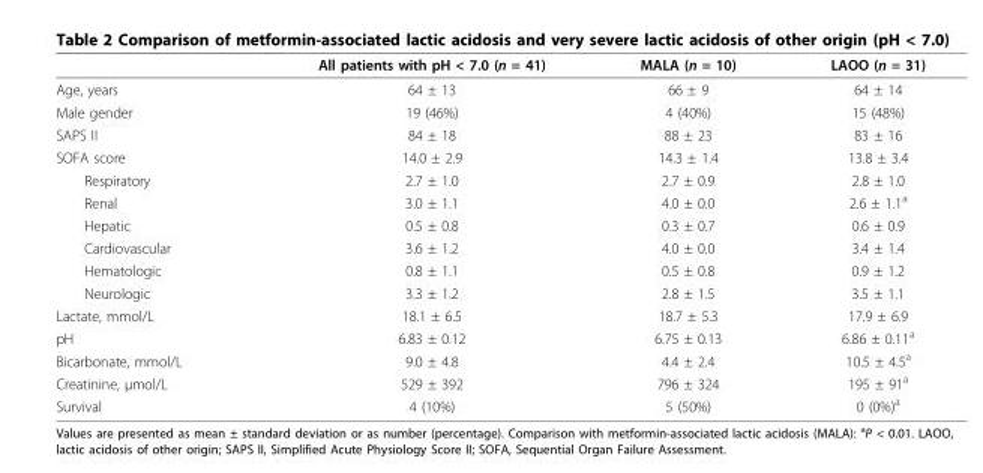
<table><thead><tr><td></td><td>All patients with pH &lt; 7.0 (n = 41)</td><td>MALA (n = 10)</td><td>LAOO (n = 31)</td></tr></thead><tbody><tr><td>Age, years</td><td>64 ± 13</td><td>66 ± 9</td><td>64 ± 14</td></tr><tr><td>Male gender</td><td>19 (46%)</td><td>4 (40%)</td><td>15 (48%)</td></tr><tr><td>SAPS II</td><td>84 ± 18</td><td>88 ± 23</td><td>83 ± 16</td></tr><tr><td>SOFA score</td><td>14.0 ± 2.9</td><td>14.3 ± 1.4</td><td>13.8 ± 3.4</td></tr><tr><td>Respiratory</td><td>2.7 ± 1.0</td><td>2.7 ± 0.9</td><td>2.8 ± 1.0</td></tr><tr><td>Renal</td><td>3.0 ± 1.1</td><td>4.0 ± 0.0</td><td>2.6 ± 1.1<sup>a</sup></td></tr><tr><td>Hepatic</td><td>0.5 ± 0.8</td><td>0.3 ± 0.7</td><td>0.6 ± 0.9</td></tr><tr><td>Cardiovascular</td><td>3.6 ± 1.2</td><td>4.0 ± 0.0</td><td>3.4 ± 1.4</td></tr><tr><td>Hematologic</td><td>0.8 ± 1.1</td><td>0.5 ± 0.8</td><td>0.9 ± 1.2</td></tr><tr><td>Neurologic</td><td>3.3 ± 1.2</td><td>2.8 ± 1.5</td><td>3.5 ± 1.1</td></tr><tr><td>Lactate, mmol/L</td><td>18.1 ± 6.5</td><td>18.7 ± 5.3</td><td>17.9 ± 6.9</td></tr><tr><td>pH</td><td>6.83 ± 0.12</td><td>6.75 ± 0.13</td><td>6.86 ± 0.11<sup>a</sup></td></tr><tr><td>Bicarbonate, mmol/L</td><td>9.0 ± 4.8</td><td>4.4 ± 2.4</td><td>10.5 ± 4.5<sup>a</sup></td></tr><tr><td>Creatinine, μmol/L</td><td>529 ± 392</td><td>796 ± 324</td><td>195 ± 91<sup>a</sup></td></tr><tr><td>Survival</td><td>4 (10%)</td><td>5 (50%)</td><td>0 (0%)<sup>a</sup></td></tr></tbody></table>